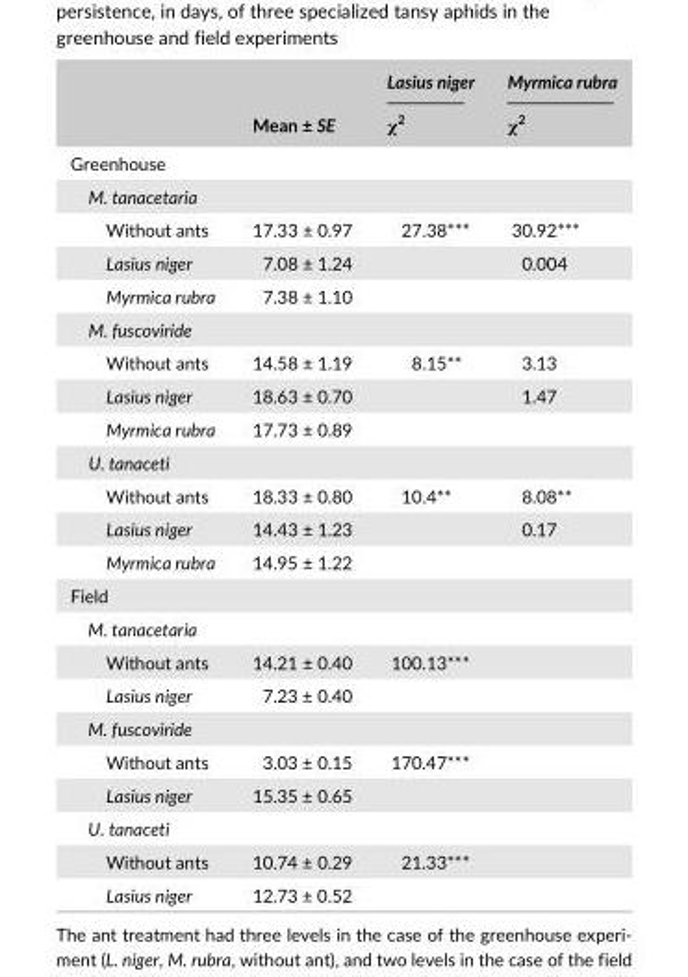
<table><thead><tr><td rowspan="2"></td><td rowspan="2">Mean ± SE</td><td rowspan="2">Lasius niger χ2</td><td rowspan="2">Myrmica rubra χ2</td></tr><tr></tr></thead><tbody><tr><td colspan="4">Greenhouse</td></tr><tr><td colspan="4">M. tanacetaria</td></tr><tr><td>Without ants</td><td>17.33 ± 0.97</td><td>27.38***</td><td>30.92***</td></tr><tr><td>Lasius niger</td><td>7.08 ± 1.24</td><td></td><td>0.004</td></tr><tr><td>Myrmica rubra</td><td>7.38 ± 1.10</td><td></td><td></td></tr><tr><td colspan="4">M. fuscoviride</td></tr><tr><td>Without ants</td><td>14.58 ± 1.19</td><td>8.15**</td><td>3.13</td></tr><tr><td>Lasius niger</td><td>18.63 ± 0.70</td><td></td><td>1.47</td></tr><tr><td>Myrmica rubra</td><td>17.73 ± 0.89</td><td></td><td></td></tr><tr><td colspan="4">U. tanaceti</td></tr><tr><td>Without ants</td><td>18.33 ± 0.80</td><td>10.4**</td><td>8.08**</td></tr><tr><td>Lasius niger</td><td>14.43 ± 1.23</td><td></td><td>0.17</td></tr><tr><td>Myrmica rubra</td><td>14.95 ± 1.22</td><td></td><td></td></tr><tr><td colspan="4">Field</td></tr><tr><td colspan="4">M. tanacetaria</td></tr><tr><td>Without ants</td><td>14.21 ± 0.40</td><td>100.13***</td><td></td></tr><tr><td>Lasius niger</td><td>7.23 ± 0.40</td><td></td><td></td></tr><tr><td colspan="4">M. fuscoviride</td></tr><tr><td>Without ants</td><td>3.03 ± 0.15</td><td>170.47***</td><td></td></tr><tr><td>Lasius niger</td><td>15.35 ± 0.65</td><td></td><td></td></tr><tr><td colspan="4">U. tanaceti</td></tr><tr><td>Without ants</td><td>10.74 ± 0.29</td><td>21.33***</td><td></td></tr><tr><td>Lasius niger</td><td>12.73 ± 0.52</td><td></td><td></td></tr></tbody></table>